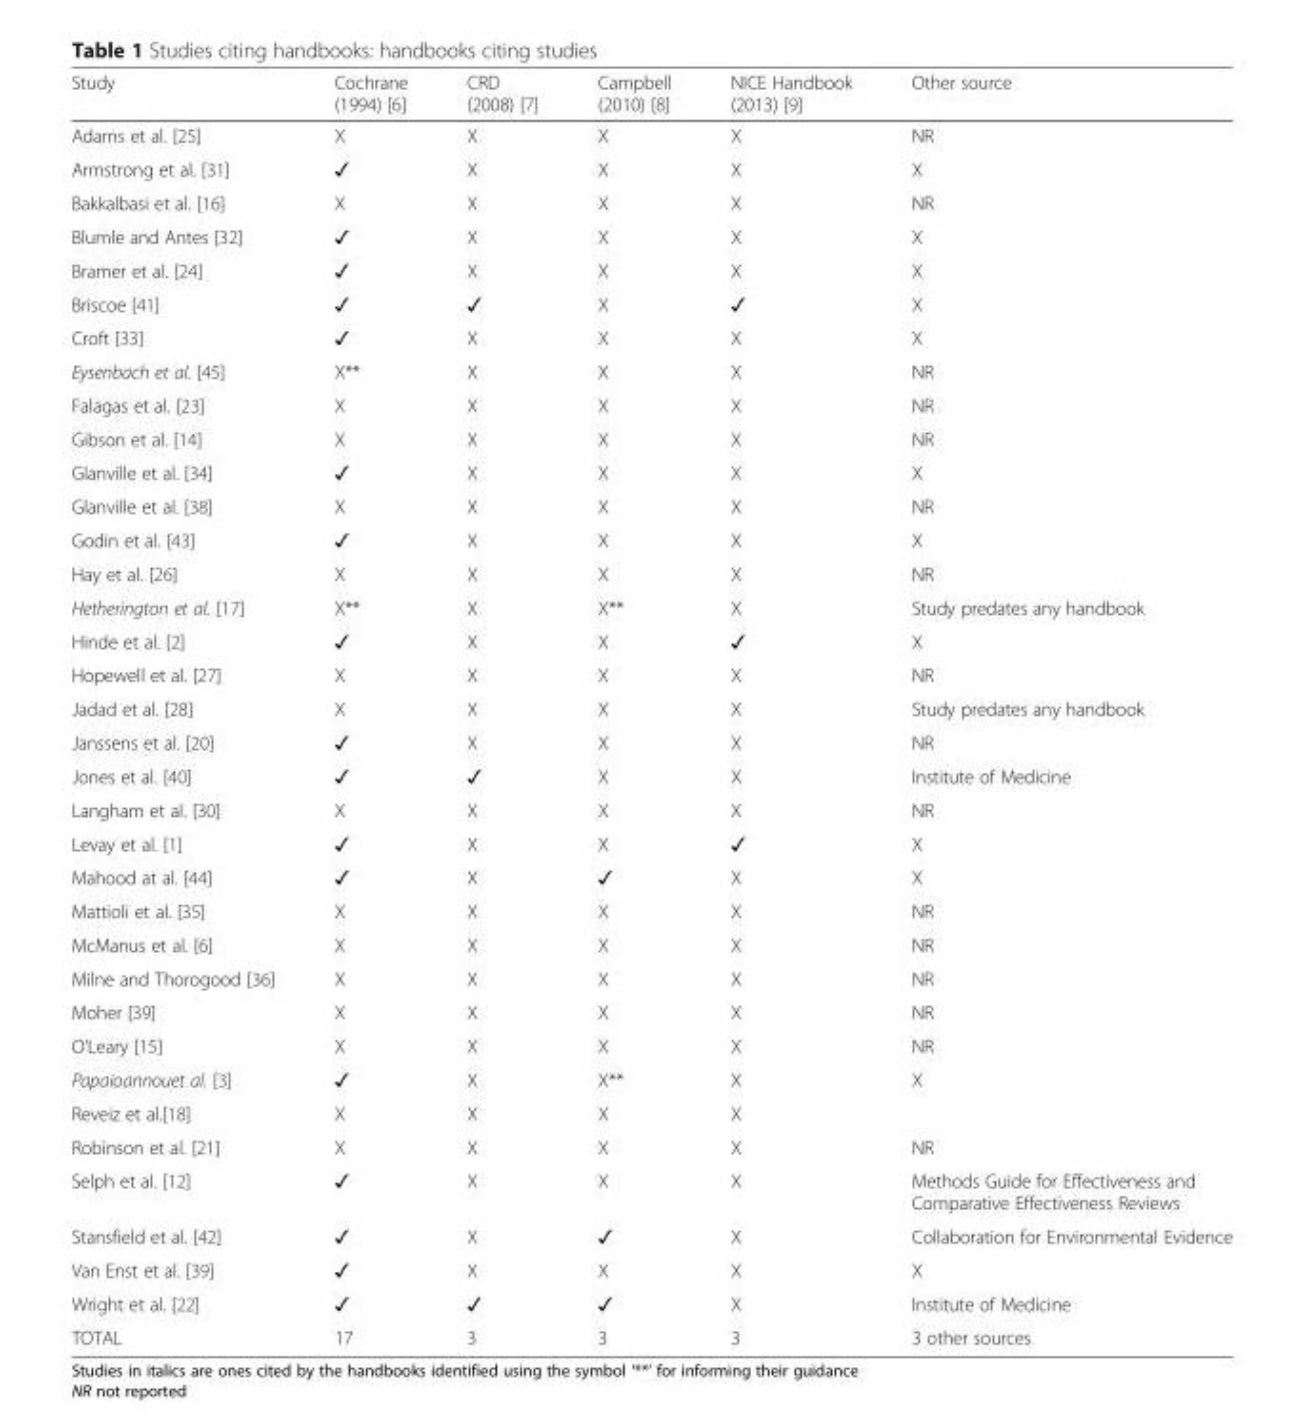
<table><thead><tr><td>Study</td><td>Cochrane (1994) [6]</td><td>CRD (2008) [7]</td><td>Campbell (2010) [8]</td><td>NICE Handbook (2013) [9]</td><td>Other source</td></tr></thead><tbody><tr><td>Adams et al. [25]</td><td>X</td><td>X</td><td>X</td><td>X</td><td>NR</td></tr><tr><td>Armstrong et al. [31]</td><td>✓</td><td>X</td><td>X</td><td>X</td><td>X</td></tr><tr><td>Bakkalbasi et al. [16]</td><td>X</td><td>X</td><td>X</td><td>X</td><td>NR</td></tr><tr><td>Blumle and Antes [32]</td><td>✓</td><td>X</td><td>X</td><td>X</td><td>X</td></tr><tr><td>Bramer et al. [24]</td><td>✓</td><td>X</td><td>X</td><td>X</td><td>X</td></tr><tr><td>Briscoe [41]</td><td>✓</td><td>✓</td><td>X</td><td>✓</td><td>X</td></tr><tr><td>Croft [33]</td><td>✓</td><td>X</td><td>X</td><td>X</td><td>X</td></tr><tr><td>Eysenbach et al. [45]</td><td>X**</td><td>X</td><td>X</td><td>X</td><td>NR</td></tr><tr><td>Falagas et al. [23]</td><td>X</td><td>X</td><td>X</td><td>X</td><td>NR</td></tr><tr><td>Gibson et al. [14]</td><td>X</td><td>X</td><td>X</td><td>X</td><td>NR</td></tr><tr><td>Glanville et al. [34]</td><td>✓</td><td>X</td><td>X</td><td>X</td><td>X</td></tr><tr><td>Glanville et al. [38]</td><td>X</td><td>X</td><td>X</td><td>X</td><td>NR</td></tr><tr><td>Godin et al. [43]</td><td>✓</td><td>X</td><td>X</td><td>X</td><td>X</td></tr><tr><td>Hay et al. [26]</td><td>X</td><td>X</td><td>X</td><td>X</td><td>NR</td></tr><tr><td>Hetherington et al. [17]</td><td>X**</td><td>X</td><td>X**</td><td>X</td><td>Study predates any handbook</td></tr><tr><td>Hinde et al. [2]</td><td>✓</td><td>X</td><td>X</td><td>✓</td><td>X</td></tr><tr><td>Hopewell et al. [27]</td><td>X</td><td>X</td><td>X</td><td>X</td><td>NR</td></tr><tr><td>Jadad et al. [28]</td><td>X</td><td>X</td><td>X</td><td>X</td><td>Study predates any handbook</td></tr><tr><td>Janssens et al. [20]</td><td>✓</td><td>X</td><td>X</td><td>X</td><td>NR</td></tr><tr><td>Jones et al. [40]</td><td>✓</td><td>✓</td><td>X</td><td>X</td><td>Institute of Medicine</td></tr><tr><td>Langham et al. [30]</td><td>X</td><td>X</td><td>X</td><td>X</td><td>NR</td></tr><tr><td>Levay et al. [1]</td><td>✓</td><td>X</td><td>X</td><td>✓</td><td>X</td></tr><tr><td>Mahood at al. [44]</td><td>✓</td><td>X</td><td>✓</td><td>X</td><td>X</td></tr><tr><td>Mattioli et al. [35]</td><td>X</td><td>X</td><td>X</td><td>X</td><td>NR</td></tr><tr><td>McManus et al. [6]</td><td>X</td><td>X</td><td>X</td><td>X</td><td>NR</td></tr><tr><td>Milne and Thorogood [36]</td><td>X</td><td>X</td><td>X</td><td>X</td><td>NR</td></tr><tr><td>Moher [39]</td><td>X</td><td>X</td><td>X</td><td>X</td><td>NR</td></tr><tr><td>O’Leary [15]</td><td>X</td><td>X</td><td>X</td><td>X</td><td>NR</td></tr><tr><td>Papaioannouet al. [3]</td><td>✓</td><td>X</td><td>X**</td><td>X</td><td>X</td></tr><tr><td>Reveiz et al.[18]</td><td>X</td><td>X</td><td>X</td><td>X</td><td></td></tr><tr><td>Robinson et al. [21]</td><td>X</td><td>X</td><td>X</td><td>X</td><td>NR</td></tr><tr><td>Selph et al. [12]</td><td>✓</td><td>X</td><td>X</td><td>X</td><td>Methods Guide for Effectiveness and Comparative Effectiveness Reviews</td></tr><tr><td>Stansfield et al. [42]</td><td>✓</td><td>X</td><td>✓</td><td>X</td><td>Collaboration for Environmental Evidence</td></tr><tr><td>Van Enst et al. [39]</td><td>✓</td><td>X</td><td>X</td><td>X</td><td>X</td></tr><tr><td>Wright et al. [22]</td><td>✓</td><td>✓</td><td>✓</td><td>X</td><td>Institute of Medicine</td></tr><tr><td>TOTAL</td><td>17</td><td>3</td><td>3</td><td>3</td><td>3 other sources</td></tr></tbody></table>